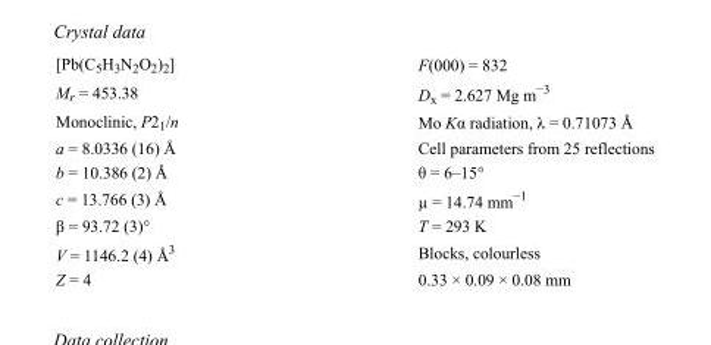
<table><tbody><tr><td>[Pb(C<sub>5</sub>H<sub>3</sub>N<sub>2</sub>O<sub>2</sub>)<sub>2</sub>]</td><td>F(000) = 832</td></tr><tr><td>M<sub>r</sub> = 453.38</td><td>D<sub>x</sub> = 2.627 Mg m<sup>−3</sup></td></tr><tr><td>Monoclinic, P2<sub>1</sub>/n</td><td>Mo Kα radiation, λ = 0.71073 Å</td></tr><tr><td>a = 8.0336 (16) Å</td><td>Cell parameters from 25 reflections</td></tr><tr><td>b = 10.386 (2) Å</td><td>θ = 6–15°</td></tr><tr><td>c = 13.766 (3) Å</td><td>µ = 14.74 mm<sup>−1</sup></td></tr><tr><td>β = 93.72 (3)°</td><td>T = 293 K</td></tr><tr><td>V = 1146.2 (4) Å<sup>3</sup></td><td>Blocks, colourless</td></tr><tr><td>Z = 4</td><td>0.33 × 0.09 × 0.08 mm</td></tr></tbody></table>